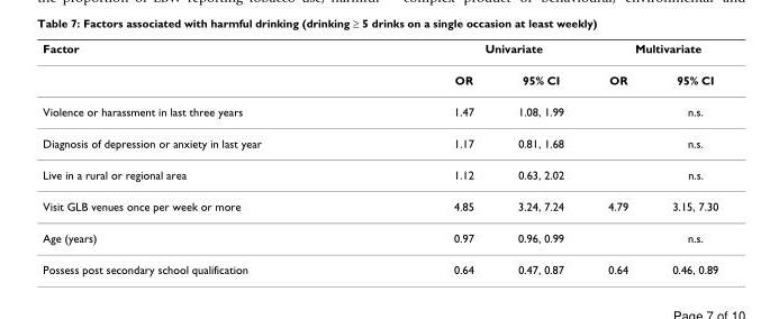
<table><thead><tr><td rowspan="2">Factor</td><td colspan="2">Univariate</td><td colspan="2">Multivariate</td></tr><tr><td>OR</td><td>95% CI</td><td>OR</td><td>95% CI</td></tr></thead><tbody><tr><td>Violence or harassment in last three years</td><td>1.47</td><td>1.08, 1.99</td><td></td><td>n.s.</td></tr><tr><td>Diagnosis of depression or anxiety in last year</td><td>1.17</td><td>0.81, 1.68</td><td></td><td>n.s.</td></tr><tr><td>Live in a rural or regional area</td><td>1.12</td><td>0.63, 2.02</td><td></td><td>n.s.</td></tr><tr><td>Visit GLB venues once per week or more</td><td>4.85</td><td>3.24, 7.24</td><td>4.79</td><td>3.15, 7.30</td></tr><tr><td>Age (years)</td><td>0.97</td><td>0.96, 0.99</td><td></td><td>n.s.</td></tr><tr><td>Possess post secondary school qualification</td><td>0.64</td><td>0.47, 0.87</td><td>0.64</td><td>0.46, 0.89</td></tr></tbody></table>